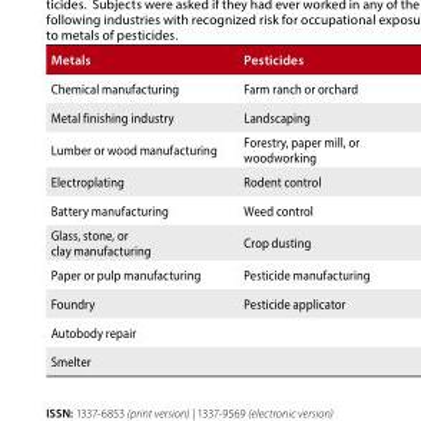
<table><thead><tr><td>Metals</td><td>Pesticides</td></tr></thead><tbody><tr><td>Chemical manufacturing</td><td>Farm ranch or orchard</td></tr><tr><td>Metal finishing industry</td><td>Landscaping</td></tr><tr><td>Lumber or wood manufacturing</td><td>Forestry, paper mill, or woodworking</td></tr><tr><td>Electroplating</td><td>Rodent control</td></tr><tr><td>Battery manufacturing</td><td>Weed control</td></tr><tr><td>Glass, stone, or clay manufacturing</td><td>Crop dusting</td></tr><tr><td>Paper or pulp manufacturing</td><td>Pesticide manufacturing</td></tr><tr><td>Foundry</td><td>Pesticide applicator</td></tr><tr><td colspan="2">Autobody repair</td></tr><tr><td>Smelter</td><td></td></tr></tbody></table>